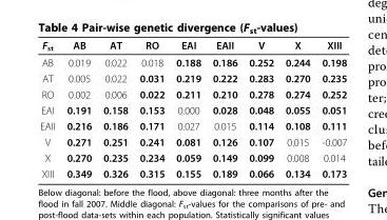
<table><thead><tr><td>F<sub>st</sub></td><td>AB</td><td>AT</td><td>RO</td><td>EAI</td><td>EAII</td><td>V</td><td>X</td><td>XIII</td></tr></thead><tbody><tr><td>AB</td><td>0.019</td><td>0.022</td><td>0.018</td><td>0.188</td><td>0.186</td><td>0.252</td><td>0.244</td><td>0.198</td></tr><tr><td>AT</td><td>0.005</td><td>0.022</td><td>0.031</td><td>0.219</td><td>0.222</td><td>0.283</td><td>0.270</td><td>0.235</td></tr><tr><td>RO</td><td>0.002</td><td>0.006</td><td>0.022</td><td>0.211</td><td>0.210</td><td>0.278</td><td>0.274</td><td>0.252</td></tr><tr><td>EAI</td><td>0.191</td><td>0.158</td><td>0.153</td><td>0.000</td><td>0.028</td><td>0.048</td><td>0.055</td><td>0.051</td></tr><tr><td>EAII</td><td>0.216</td><td>0.186</td><td>0.171</td><td>0.027</td><td>0.015</td><td>0.114</td><td>0.108</td><td>0.111</td></tr><tr><td>V</td><td>0.271</td><td>0.251</td><td>0.241</td><td>0.081</td><td>0.126</td><td>0.107</td><td>0.015</td><td>-0.007</td></tr><tr><td>X</td><td>0.270</td><td>0.235</td><td>0.234</td><td>0.059</td><td>0.149</td><td>0.099</td><td>0.008</td><td>0.014</td></tr><tr><td>XIII</td><td>0.349</td><td>0.326</td><td>0.315</td><td>0.155</td><td>0.189</td><td>0.066</td><td>0.134</td><td>0.173</td></tr></tbody></table>